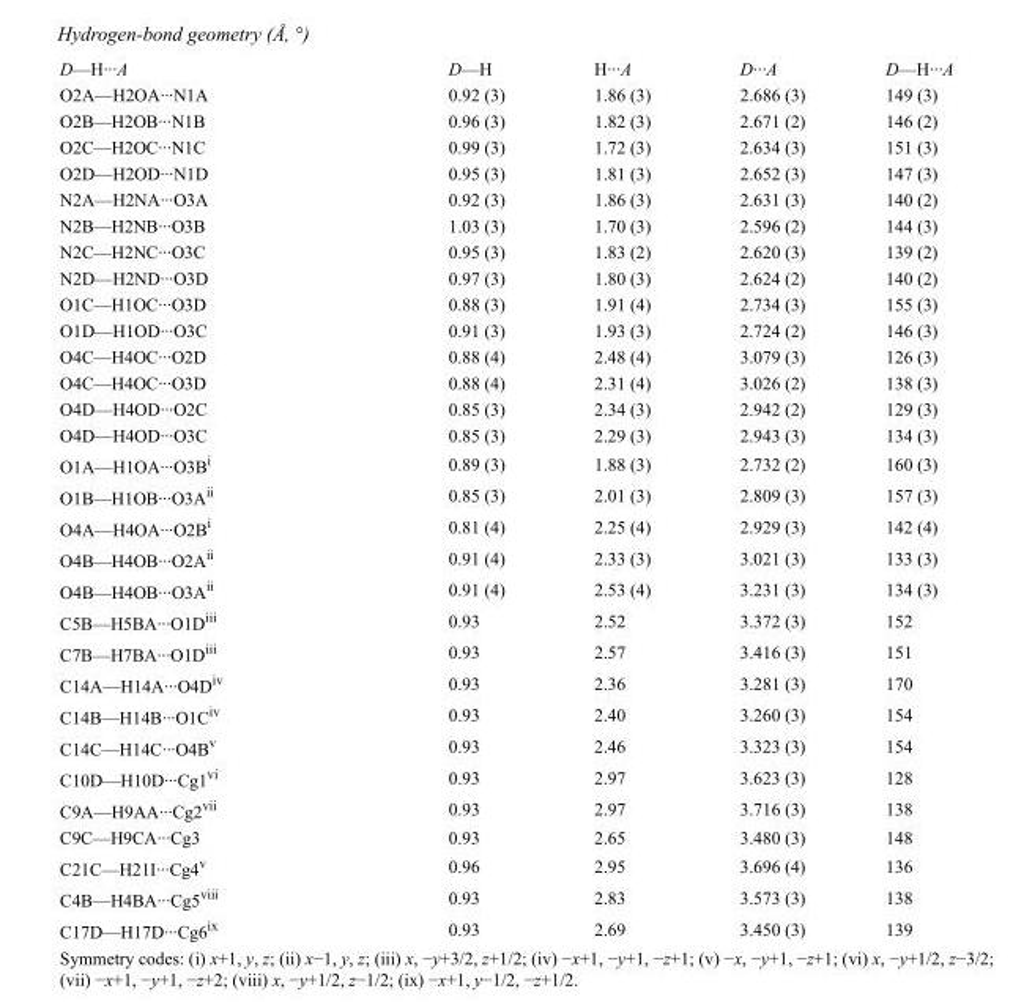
<table><tbody><tr><td>D—H···A</td><td>D—H</td><td>H···A</td><td>D···A</td><td>D—H···A</td></tr><tr><td>O2A—H2OA···N1A</td><td>0.92 (3)</td><td>1.86 (3)</td><td>2.686 (3)</td><td>149 (3)</td></tr><tr><td>O2B—H2OB···N1B</td><td>0.96 (3)</td><td>1.82 (3)</td><td>2.671 (2)</td><td>146 (2)</td></tr><tr><td>O2C—H2OC···N1C</td><td>0.99 (3)</td><td>1.72 (3)</td><td>2.634 (3)</td><td>151 (3)</td></tr><tr><td>O2D—H2OD···N1D</td><td>0.95 (3)</td><td>1.81 (3)</td><td>2.652 (3)</td><td>147 (3)</td></tr><tr><td>N2A—H2NA···O3A</td><td>0.92 (3)</td><td>1.86 (3)</td><td>2.631 (3)</td><td>140 (2)</td></tr><tr><td>N2B—H2NB···O3B</td><td>1.03 (3)</td><td>1.70 (3)</td><td>2.596 (2)</td><td>144 (3)</td></tr><tr><td>N2C—H2NC···O3C</td><td>0.95 (3)</td><td>1.83 (2)</td><td>2.620 (3)</td><td>139 (2)</td></tr><tr><td>N2D—H2ND···O3D</td><td>0.97 (3)</td><td>1.80 (3)</td><td>2.624 (2)</td><td>140 (2)</td></tr><tr><td>O1C—H1OC···O3D</td><td>0.88 (3)</td><td>1.91 (4)</td><td>2.734 (3)</td><td>155 (3)</td></tr><tr><td>O1D—H1OD···O3C</td><td>0.91 (3)</td><td>1.93 (3)</td><td>2.724 (2)</td><td>146 (3)</td></tr><tr><td>O4C—H4OC···O2D</td><td>0.88 (4)</td><td>2.48 (4)</td><td>3.079 (3)</td><td>126 (3)</td></tr><tr><td>O4C—H4OC···O3D</td><td>0.88 (4)</td><td>2.31 (4)</td><td>3.026 (2)</td><td>138 (3)</td></tr><tr><td>O4D—H4OD···O2C</td><td>0.85 (3)</td><td>2.34 (3)</td><td>2.942 (2)</td><td>129 (3)</td></tr><tr><td>O4D—H4OD···O3C</td><td>0.85 (3)</td><td>2.29 (3)</td><td>2.943 (3)</td><td>134 (3)</td></tr><tr><td>O1A—H1OA···O3B<sup>i</sup></td><td>0.89 (3)</td><td>1.88 (3)</td><td>2.732 (2)</td><td>160 (3)</td></tr><tr><td>O1B—H1OB···O3A<sup>ii</sup></td><td>0.85 (3)</td><td>2.01 (3)</td><td>2.809 (3)</td><td>157 (3)</td></tr><tr><td>O4A—H4OA···O2B<sup>i</sup></td><td>0.81 (4)</td><td>2.25 (4)</td><td>2.929 (3)</td><td>142 (4)</td></tr><tr><td>O4B—H4OB···O2A<sup>ii</sup></td><td>0.91 (4)</td><td>2.33 (3)</td><td>3.021 (3)</td><td>133 (3)</td></tr><tr><td>O4B—H4OB···O3A<sup>ii</sup></td><td>0.91 (4)</td><td>2.53 (4)</td><td>3.231 (3)</td><td>134 (3)</td></tr><tr><td>C5B—H5BA···O1D<sup>iii</sup></td><td>0.93</td><td>2.52</td><td>3.372 (3)</td><td>152</td></tr><tr><td>C7B—H7BA···O1D<sup>iii</sup></td><td>0.93</td><td>2.57</td><td>3.416 (3)</td><td>151</td></tr><tr><td>C14A—H14A···O4D<sup>iv</sup></td><td>0.93</td><td>2.36</td><td>3.281 (3)</td><td>170</td></tr><tr><td>C14B—H14B···O1C<sup>iv</sup></td><td>0.93</td><td>2.40</td><td>3.260 (3)</td><td>154</td></tr><tr><td>C14C—H14C···O4B<sup>v</sup></td><td>0.93</td><td>2.46</td><td>3.323 (3)</td><td>154</td></tr><tr><td>C10D—H10D···Cg1<sup>vi</sup></td><td>0.93</td><td>2.97</td><td>3.623 (3)</td><td>128</td></tr><tr><td>C9A—H9AA···Cg2<sup>vii</sup></td><td>0.93</td><td>2.97</td><td>3.716 (3)</td><td>138</td></tr><tr><td>C9C—H9CA···Cg3</td><td>0.93</td><td>2.65</td><td>3.480 (3)</td><td>148</td></tr><tr><td>C21C—H21I···Cg4<sup>v</sup></td><td>0.96</td><td>2.95</td><td>3.696 (4)</td><td>136</td></tr><tr><td>C4B—H4BA···Cg5<sup>viii</sup></td><td>0.93</td><td>2.83</td><td>3.573 (3)</td><td>138</td></tr><tr><td>C17D—H17D···Cg6<sup>ix</sup></td><td>0.93</td><td>2.69</td><td>3.450 (3)</td><td>139</td></tr></tbody></table>